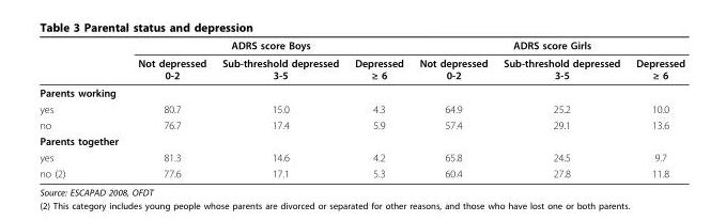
<table><thead><tr><td rowspan="2"></td><td colspan="3">ADRS score Boys</td><td colspan="3">ADRS score Girls</td></tr><tr><td>Not depressed 0-2</td><td>Sub-threshold depressed 3-5</td><td>Depressed ≥ 6</td><td>Not depressed 0-2</td><td>Sub-threshold depressed 3-5</td><td>Depressed ≥ 6</td></tr></thead><tbody><tr><td colspan="7">Parents working</td></tr><tr><td>yes</td><td>80.7</td><td>15.0</td><td>4.3</td><td>64.9</td><td>25.2</td><td>10.0</td></tr><tr><td>no</td><td>76.7</td><td>17.4</td><td>5.9</td><td>57.4</td><td>29.1</td><td>13.6</td></tr><tr><td colspan="7">Parents together</td></tr><tr><td>yes</td><td>81.3</td><td>14.6</td><td>4.2</td><td>65.8</td><td>24.5</td><td>9.7</td></tr><tr><td>no (2)</td><td>77.6</td><td>17.1</td><td>5.3</td><td>60.4</td><td>27.8</td><td>11.8</td></tr></tbody></table>